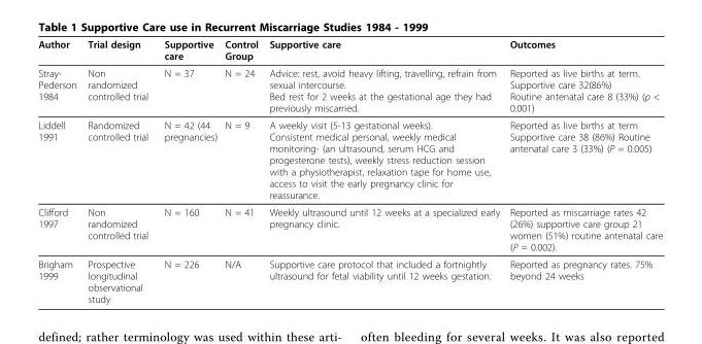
<table><thead><tr><td>Author</td><td>Trial design</td><td>Supportive care</td><td>Control Group</td><td>Supportive care</td><td>Outcomes</td></tr></thead><tbody><tr><td>Stray- Pederson 1984</td><td>Non randomized controlled trial</td><td>N = 37</td><td>N = 24</td><td>Advice: rest, avoid heavy lifting, travelling, refrain from sexual intercourse. Bed rest for 2 weeks at the gestational age they had previously miscarried.</td><td>Reported as live births at term. Supportive care 32(86%) Routine antenatal care 8 (33%) (p &lt; 0.001)</td></tr><tr><td>Liddell 1991</td><td>Randomized controlled trial</td><td>N = 42 (44 pregnancies)</td><td>N = 9</td><td>A weekly visit (5-13 gestational weeks). Consistent medical personal, weekly medical monitoring- (an ultrasound, serum HCG and progesterone tests), weekly stress reduction session with a physiotherapist, relaxation tape for home use, access to visit the early pregnancy clinic for reassurance.</td><td>Reported as live births at term Supportive care 38 (86%) Routine antenatal care 3 (33%) (P = 0.005)</td></tr><tr><td>Clifford 1997</td><td>Non randomized controlled trial</td><td>N = 160</td><td>N = 41</td><td>Weekly ultrasound until 12 weeks at a specialized early pregnancy clinic.</td><td>Reported as miscarriage rates 42 (26%) supportive care group 21 women (51%) routine antenatal care (P = 0.002).</td></tr><tr><td>Brigham 1999</td><td>Prospective longitudinal observational study</td><td>N = 226</td><td>N/A</td><td>Supportive care protocol that included a fortnightly ultrasound for fetal viability until 12 weeks gestation.</td><td>Reported as pregnancy rates. 75% beyond 24 weeks</td></tr></tbody></table>